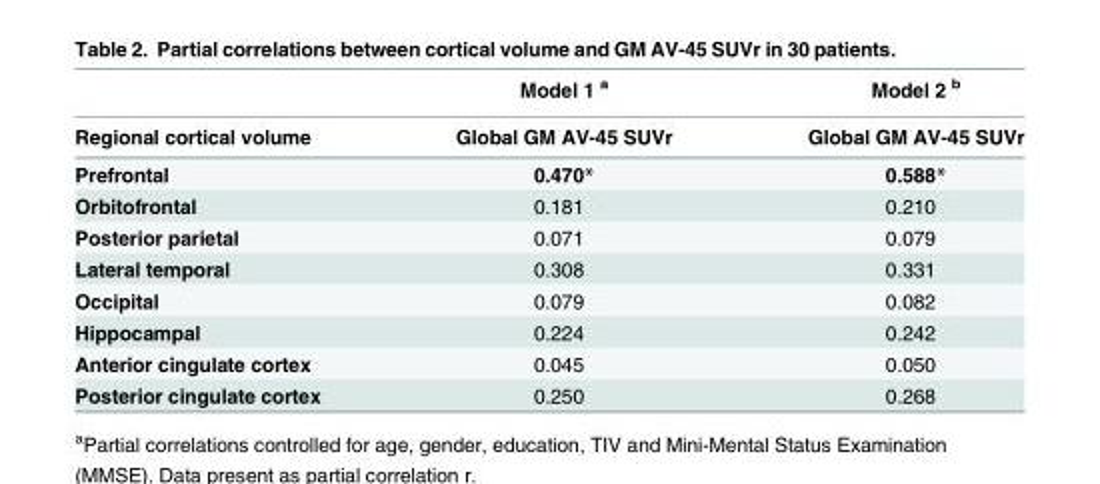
<table><thead><tr><td rowspan="2">Regional cortical volume</td><td rowspan="2">Model 1 <sup>a</sup> Global GM AV-45 SUVr</td><td rowspan="2">Model 2 <sup>b</sup> Global GM AV-45 SUVr</td></tr><tr></tr></thead><tbody><tr><td>Prefrontal</td><td>0.470*</td><td>0.588*</td></tr><tr><td>Orbitofrontal</td><td>0.181</td><td>0.210</td></tr><tr><td>Posterior parietal</td><td>0.071</td><td>0.079</td></tr><tr><td>Lateral temporal</td><td>0.308</td><td>0.331</td></tr><tr><td>Occipital</td><td>0.079</td><td>0.082</td></tr><tr><td>Hippocampal</td><td>0.224</td><td>0.242</td></tr><tr><td>Anterior cingulate cortex</td><td>0.045</td><td>0.050</td></tr><tr><td>Posterior cingulate cortex</td><td>0.250</td><td>0.268</td></tr></tbody></table>